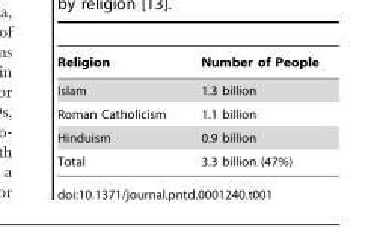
<table><thead><tr><td>Religion</td><td>Number of People</td></tr></thead><tbody><tr><td>Islam</td><td>1.3 billion</td></tr><tr><td>Roman Catholicism</td><td>1.1 billion</td></tr><tr><td>Hinduism</td><td>0.9 billion</td></tr><tr><td>Total</td><td>3.3 billion (47%)</td></tr></tbody></table>